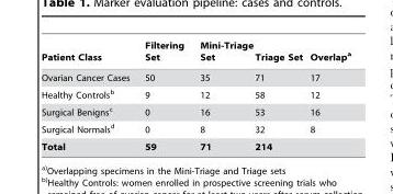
<table><thead><tr><td>Patient Class</td><td>Filtering Set</td><td>Mini-Triage Set</td><td>Triage Set</td><td>Overlap<sup>a</sup></td></tr></thead><tbody><tr><td>Ovarian Cancer Cases</td><td>50</td><td>35</td><td>71</td><td>17</td></tr><tr><td>Healthy Controls<sup>b</sup></td><td>9</td><td>12</td><td>58</td><td>12</td></tr><tr><td>Surgical Benigns<sup>c</sup></td><td>0</td><td>16</td><td>53</td><td>16</td></tr><tr><td>Surgical Normals<sup>d</sup></td><td>0</td><td>8</td><td>32</td><td>8</td></tr><tr><td>Total</td><td>59</td><td>71</td><td>214</td><td></td></tr></tbody></table>